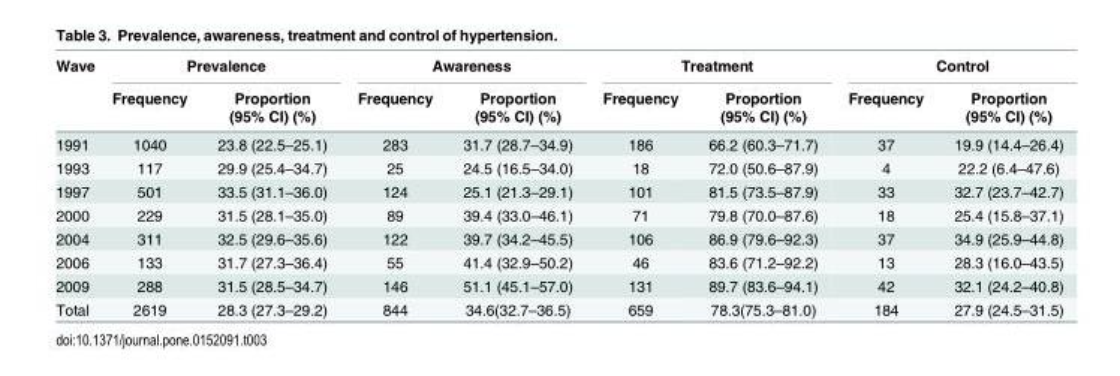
<table><thead><tr><td rowspan="2">Wave</td><td colspan="2">Prevalence</td><td colspan="2">Awareness</td><td colspan="2">Treatment</td><td colspan="2">Control</td></tr><tr><td>Frequency</td><td>Proportion (95% CI) (%)</td><td>Frequency</td><td>Proportion (95% CI) (%)</td><td>Frequency</td><td>Proportion (95% CI) (%)</td><td>Frequency</td><td>Proportion (95% CI) (%)</td></tr></thead><tbody><tr><td>1991</td><td>1040</td><td>23.8 (22.5–25.1)</td><td>283</td><td>31.7 (28.7–34.9)</td><td>186</td><td>66.2 (60.3–71.7)</td><td>37</td><td>19.9 (14.4–26.4)</td></tr><tr><td>1993</td><td>117</td><td>29.9 (25.4–34.7)</td><td>25</td><td>24.5 (16.5–34.0)</td><td>18</td><td>72.0 (50.6–87.9)</td><td>4</td><td>22.2 (6.4–47.6)</td></tr><tr><td>1997</td><td>501</td><td>33.5 (31.1–36.0)</td><td>124</td><td>25.1 (21.3–29.1)</td><td>101</td><td>81.5 (73.5–87.9)</td><td>33</td><td>32.7 (23.7–42.7)</td></tr><tr><td>2000</td><td>229</td><td>31.5 (28.1–35.0)</td><td>89</td><td>39.4 (33.0–46.1)</td><td>71</td><td>79.8 (70.0–87.6)</td><td>18</td><td>25.4 (15.8–37.1)</td></tr><tr><td>2004</td><td>311</td><td>32.5 (29.6–35.6)</td><td>122</td><td>39.7 (34.2–45.5)</td><td>106</td><td>86.9 (79.6–92.3)</td><td>37</td><td>34.9 (25.9–44.8)</td></tr><tr><td>2006</td><td>133</td><td>31.7 (27.3–36.4)</td><td>55</td><td>41.4 (32.9–50.2)</td><td>46</td><td>83.6 (71.2–92.2)</td><td>13</td><td>28.3 (16.0–43.5)</td></tr><tr><td>2009</td><td>288</td><td>31.5 (28.5–34.7)</td><td>146</td><td>51.1 (45.1–57.0)</td><td>131</td><td>89.7 (83.6–94.1)</td><td>42</td><td>32.1 (24.2–40.8)</td></tr><tr><td>Total</td><td>2619</td><td>28.3 (27.3–29.2)</td><td>844</td><td>34.6(32.7–36.5)</td><td>659</td><td>78.3(75.3–81.0)</td><td>184</td><td>27.9 (24.5–31.5)</td></tr></tbody></table>